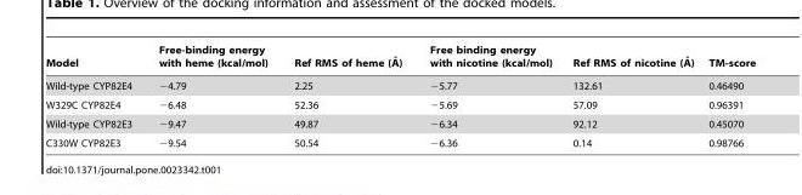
<table><thead><tr><td>Model</td><td>Free-binding energy with heme (kcal/mol)</td><td>Ref RMS of heme (A˚ )</td><td>Free binding energy with nicotine (kcal/mol)</td><td>Ref RMS of nicotine (A˚ )</td><td>TM-score</td></tr></thead><tbody><tr><td>Wild-type CYP82E4</td><td>−4.79</td><td>2.25</td><td>−5.77</td><td>132.61</td><td>0.46490</td></tr><tr><td>W329C CYP82E4</td><td>−6.48</td><td>52.36</td><td>−5.69</td><td>57.09</td><td>0.96391</td></tr><tr><td>Wild-type CYP82E3</td><td>−9.47</td><td>49.87</td><td>−6.34</td><td>92.12</td><td>0.45070</td></tr><tr><td>C330W CYP82E3</td><td>−9.54</td><td>50.54</td><td>−6.36</td><td>0.14</td><td>0.98766</td></tr></tbody></table>